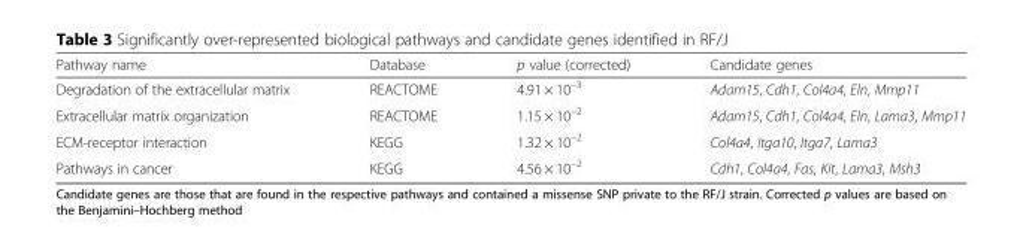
<table><thead><tr><td>Pathway name</td><td>Database</td><td>p value (corrected)</td><td>Candidate genes</td></tr></thead><tbody><tr><td>Degradation of the extracellular matrix</td><td>REACTOME</td><td>4.91 × 10<sup>–3</sup></td><td>Adam15, Cdh1, Col4a4, Eln, Mmp11</td></tr><tr><td>Extracellular matrix organization</td><td>REACTOME</td><td>1.15 × 10<sup>–2</sup></td><td>Adam15, Cdh1, Col4a4, Eln, Lama3, Mmp11</td></tr><tr><td>ECM-receptor interaction</td><td>KEGG</td><td>1.32 × 10<sup>–2</sup></td><td>Col4a4, Itga10, Itga7, Lama3</td></tr><tr><td>Pathways in cancer</td><td>KEGG</td><td>4.56 × 10<sup>–2</sup></td><td>Cdh1, Col4a4, Fas, Kit, Lama3, Msh3</td></tr></tbody></table>